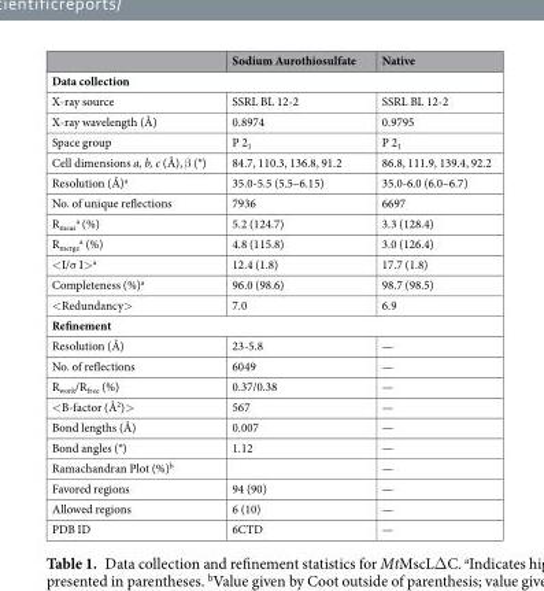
<table><thead><tr><td></td><td>Sodium Aurothiosulfate</td><td>Native</td></tr></thead><tbody><tr><td colspan="3">Data collection</td></tr><tr><td>X-ray source</td><td>SSRL BL 12-2</td><td>SSRL BL 12-2</td></tr><tr><td>X-ray wavelength (Å)</td><td>0.8974</td><td>0.9795</td></tr><tr><td>Space group</td><td>P 2<sub>1</sub></td><td>P 2<sub>1</sub></td></tr><tr><td>Cell dimensions a, b, c (Å), β (°)</td><td>84.7, 110.3, 136.8, 91.2</td><td>86.8, 111.9, 139.4, 92.2</td></tr><tr><td>Resolution (Å)<sup>a</sup></td><td>35.0-5.5 (5.5–6.15)</td><td>35.0-6.0 (6.0–6.7)</td></tr><tr><td>No. of unique reflections</td><td>7936</td><td>6697</td></tr><tr><td>R<sub>meas</sub> <sup>a</sup> (%)</td><td>5.2 (124.7)</td><td>3.3 (128.4)</td></tr><tr><td>R<sub>merge</sub> <sup>a</sup> (%)</td><td>4.8 (115.8)</td><td>3.0 (126.4)</td></tr><tr><td>&lt;I/σ I&gt;<sup>a</sup></td><td>12.4 (1.8)</td><td>17.7 (1.8)</td></tr><tr><td>Completeness (%)<sup>a</sup></td><td>96.0 (98.6)</td><td>98.7 (98.5)</td></tr><tr><td>&lt;Redundancy&gt;</td><td>7.0</td><td>6.9</td></tr><tr><td colspan="3">Refinement</td></tr><tr><td>Resolution (Å)</td><td>23-5.8</td><td>—</td></tr><tr><td>No. of reflections</td><td>6049</td><td>—</td></tr><tr><td>R<sub>work</sub>/R<sub>free</sub> (%)</td><td>0.37/0.38</td><td>—</td></tr><tr><td>&lt;B-factor (Å<sup>2</sup>)&gt;</td><td>567</td><td>—</td></tr><tr><td>Bond lengths (Å)</td><td>0.007</td><td>—</td></tr><tr><td>Bond angles (°)</td><td>1.12</td><td>—</td></tr><tr><td>Ramachandran Plot (%)<sup>b</sup></td><td></td><td>—</td></tr><tr><td>Favored regions</td><td>94 (90)</td><td>—</td></tr><tr><td>Allowed regions</td><td>6 (10)</td><td>—</td></tr><tr><td>PDB ID</td><td>6CTD</td><td>—</td></tr></tbody></table>